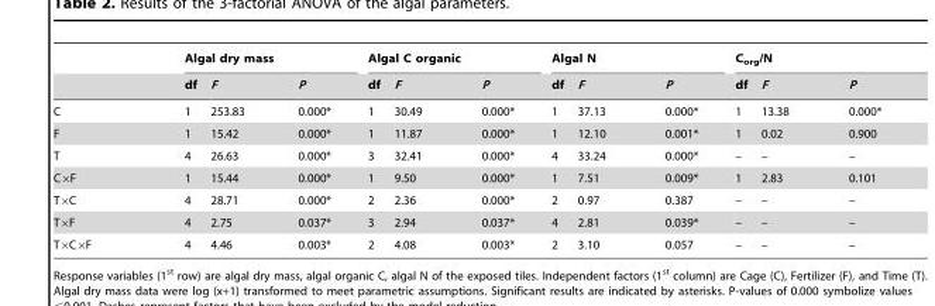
<table><thead><tr><td rowspan="2"></td><td colspan="3">Algal dry mass</td><td colspan="3">Algal C organic</td><td colspan="3">Algal N</td><td colspan="3">C<sub>org</sub>/N</td></tr><tr><td>df</td><td>F</td><td>P</td><td>df</td><td>F</td><td>P</td><td>df</td><td>F</td><td>P</td><td>df</td><td>F</td><td>P</td></tr></thead><tbody><tr><td>C</td><td>1</td><td>253.83</td><td>0.000*</td><td>1</td><td>30.49</td><td>0.000*</td><td>1</td><td>37.13</td><td>0.000*</td><td>1</td><td>13.38</td><td>0.000*</td></tr><tr><td>F</td><td>1</td><td>15.42</td><td>0.000*</td><td>1</td><td>11.87</td><td>0.000*</td><td>1</td><td>12.10</td><td>0.001*</td><td>1</td><td>0.02</td><td>0.900</td></tr><tr><td>T</td><td>4</td><td>26.63</td><td>0.000*</td><td>3</td><td>32.41</td><td>0.000*</td><td>4</td><td>33.24</td><td>0.000*</td><td>–</td><td>–</td><td>–</td></tr><tr><td>C×F</td><td>1</td><td>15.44</td><td>0.000*</td><td>1</td><td>9.50</td><td>0.000*</td><td>1</td><td>7.51</td><td>0.009*</td><td>1</td><td>2.83</td><td>0.101</td></tr><tr><td>T×C</td><td>4</td><td>28.71</td><td>0.000*</td><td>2</td><td>2.36</td><td>0.000*</td><td>2</td><td>0.97</td><td>0.387</td><td>–</td><td>–</td><td>–</td></tr><tr><td>T×F</td><td>4</td><td>2.75</td><td>0.037*</td><td>3</td><td>2.94</td><td>0.037*</td><td>4</td><td>2.81</td><td>0.039*</td><td>–</td><td>–</td><td>–</td></tr><tr><td>T×C×F</td><td>4</td><td>4.46</td><td>0.003*</td><td>2</td><td>4.08</td><td>0.003*</td><td>2</td><td>3.10</td><td>0.057</td><td>–</td><td>–</td><td>–</td></tr></tbody></table>